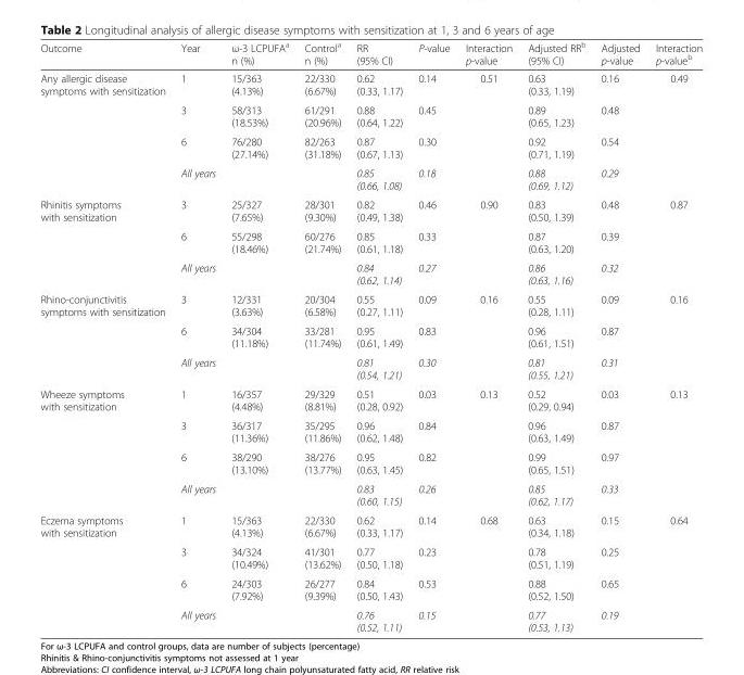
<table><thead><tr><td>Outcome</td><td>Year</td><td>ω-3 LCPUFA<sup>a</sup> n (%)</td><td>Control<sup>a</sup> n (%)</td><td>RR (95% CI)</td><td>P-value</td><td>Interaction p-value</td><td>Adjusted RR<sup>b</sup> (95% CI)</td><td>Adjusted p-value</td><td>Interaction p-value<sup>b</sup></td></tr></thead><tbody><tr><td rowspan="4">Any allergic disease symptoms with sensitization</td><td>1</td><td>15/363 (4.13%)</td><td>22/330 (6.67%)</td><td>0.62 (0.33, 1.17)</td><td>0.14</td><td>0.51</td><td>0.63 (0.33, 1.19)</td><td>0.16</td><td>0.49</td></tr><tr><td>3</td><td>58/313 (18.53%)</td><td>61/291 (20.96%)</td><td>0.88 (0.64, 1.22)</td><td>0.45</td><td></td><td>0.89 (0.65, 1.23)</td><td>0.48</td><td></td></tr><tr><td>6</td><td>76/280 (27.14%)</td><td>82/263 (31.18%)</td><td>0.87 (0.67, 1.13)</td><td>0.30</td><td></td><td>0.92 (0.71, 1.19)</td><td>0.54</td><td></td></tr><tr><td>All years</td><td></td><td></td><td>0.85 (0.66, 1.08)</td><td>0.18</td><td></td><td>0.88 (0.69, 1.12)</td><td>0.29</td><td></td></tr><tr><td rowspan="3">Rhinitis symptoms with sensitization</td><td>3</td><td>25/327 (7.65%)</td><td>28/301 (9.30%)</td><td>0.82 (0.49, 1.38)</td><td>0.46</td><td>0.90</td><td>0.83 (0.50, 1.39)</td><td>0.48</td><td>0.87</td></tr><tr><td>6</td><td>55/298 (18.46%)</td><td>60/276 (21.74%)</td><td>0.85 (0.61, 1.18)</td><td>0.33</td><td></td><td>0.87 (0.63, 1.20)</td><td>0.39</td><td></td></tr><tr><td>All years</td><td></td><td></td><td>0.84 (0.62, 1.14)</td><td>0.27</td><td></td><td>0.86 (0.63, 1.16)</td><td>0.32</td><td></td></tr><tr><td rowspan="3">Rhino-conjunctivitis symptoms with sensitization</td><td>3</td><td>12/331 (3.63%)</td><td>20/304 (6.58%)</td><td>0.55 (0.27, 1.11)</td><td>0.09</td><td>0.16</td><td>0.55 (0.28, 1.11)</td><td>0.09</td><td>0.16</td></tr><tr><td>6</td><td>34/304 (11.18%)</td><td>33/281 (11.74%)</td><td>0.95 (0.61, 1.49)</td><td>0.83</td><td></td><td>0.96 (0.61, 1.51)</td><td>0.87</td><td></td></tr><tr><td>All years</td><td></td><td></td><td>0.81 (0.54, 1.21)</td><td>0.30</td><td></td><td>0.81 (0.55, 1.21)</td><td>0.31</td><td></td></tr><tr><td rowspan="4">Wheeze symptoms with sensitization</td><td>1</td><td>16/357 (4.48%)</td><td>29/329 (8.81%)</td><td>0.51 (0.28, 0.92)</td><td>0.03</td><td>0.13</td><td>0.52 (0.29, 0.94)</td><td>0.03</td><td>0.13</td></tr><tr><td>3</td><td>36/317 (11.36%)</td><td>35/295 (11.86%)</td><td>0.96 (0.62, 1.48)</td><td>0.84</td><td></td><td>0.96 (0.63, 1.49)</td><td>0.87</td><td></td></tr><tr><td>6</td><td>38/290 (13.10%)</td><td>38/276 (13.77%)</td><td>0.95 (0.63, 1.45)</td><td>0.82</td><td></td><td>0.99 (0.65, 1.51)</td><td>0.97</td><td></td></tr><tr><td>All years</td><td></td><td></td><td>0.83 (0.60, 1.15)</td><td>0.26</td><td></td><td>0.85 (0.62, 1.17)</td><td>0.33</td><td></td></tr><tr><td rowspan="4">Eczema symptoms with sensitization</td><td>1</td><td>15/363 (4.13%)</td><td>22/330 (6.67%)</td><td>0.62 (0.33, 1.17)</td><td>0.14</td><td>0.68</td><td>0.63 (0.34, 1.18)</td><td>0.15</td><td>0.64</td></tr><tr><td>3</td><td>34/324 (10.49%)</td><td>41/301 (13.62%)</td><td>0.77 (0.50, 1.18)</td><td>0.23</td><td></td><td>0.78 (0.51, 1.19)</td><td>0.25</td><td></td></tr><tr><td>6</td><td>24/303 (7.92%)</td><td>26/277 (9.39%)</td><td>0.84 (0.50, 1.43)</td><td>0.53</td><td></td><td>0.88 (0.52, 1.50)</td><td>0.65</td><td></td></tr><tr><td>All years</td><td></td><td></td><td>0.76 (0.52, 1.11)</td><td>0.15</td><td></td><td>0.77 (0.53, 1.13)</td><td>0.19</td><td></td></tr></tbody></table>